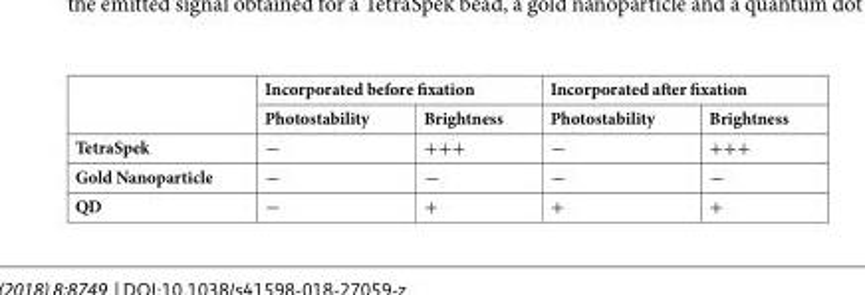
<table><thead><tr><td rowspan="2"></td><td colspan="2">Incorporated before fixation</td><td colspan="2">Incorporated after fixation</td></tr><tr><td>Photostability</td><td>Brightness</td><td>Photostability</td><td>Brightness</td></tr></thead><tbody><tr><td>TetraSpek</td><td>−</td><td>+++</td><td>−</td><td>+++</td></tr><tr><td>Gold Nanoparticle</td><td>−</td><td>−</td><td>−</td><td>−</td></tr><tr><td>QD</td><td>−</td><td>+</td><td>+</td><td>+</td></tr></tbody></table>